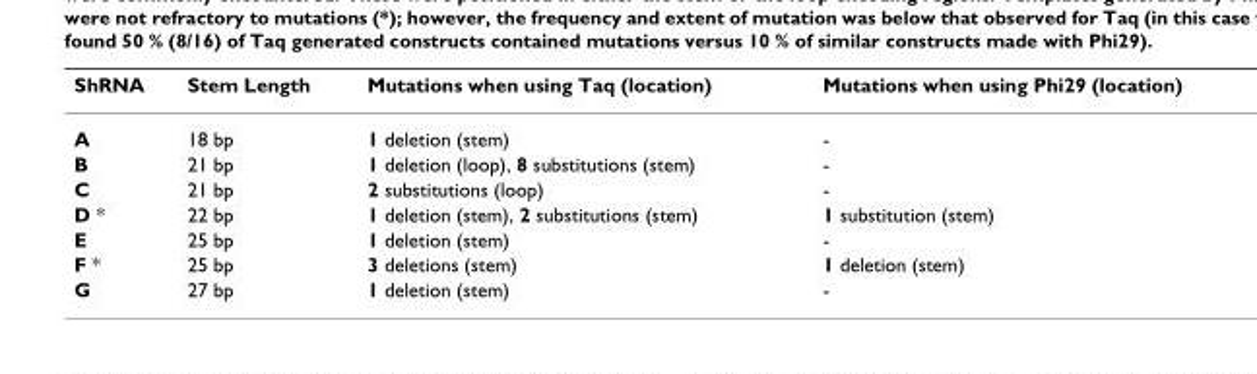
<table><thead><tr><td>ShRNA</td><td>Stem Length</td><td>Mutations when using Taq (location)</td><td>Mutations when using Phi29 (location)</td></tr></thead><tbody><tr><td>A</td><td>18 bp</td><td>1 deletion (stem)</td><td>-</td></tr><tr><td>B</td><td>21 bp</td><td>1 deletion (loop), 8 substitutions (stem)</td><td>-</td></tr><tr><td>C</td><td>21 bp</td><td>2 substitutions (loop)</td><td>-</td></tr><tr><td>D *</td><td>22 bp</td><td>1 deletion (stem), 2 substitutions (stem)</td><td>1 substitution (stem)</td></tr><tr><td>E</td><td>25 bp</td><td>1 deletion (stem)</td><td>-</td></tr><tr><td>F *</td><td>25 bp</td><td>3 deletions (stem)</td><td>1 deletion (stem)</td></tr><tr><td>G</td><td>27 bp</td><td>1 deletion (stem)</td><td>-</td></tr></tbody></table>